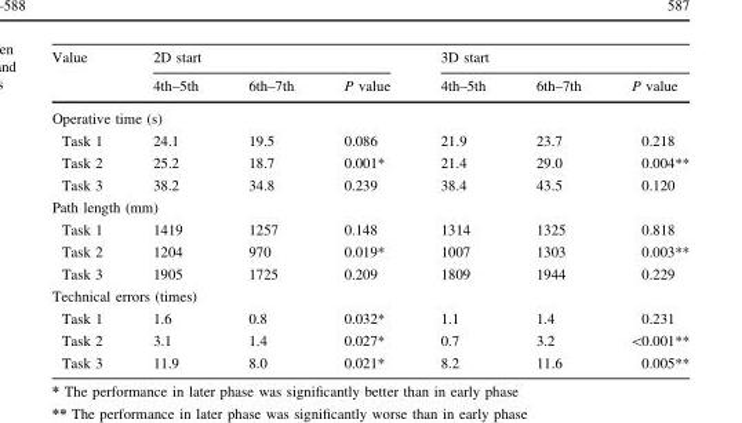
<table><thead><tr><td rowspan="2">Value</td><td colspan="3">2D start</td><td colspan="3">3D start</td></tr><tr><td>4th–5th</td><td>6th–7th</td><td>P value</td><td>4th–5th</td><td>6th–7th</td><td>P value</td></tr></thead><tbody><tr><td colspan="7">Operative time (s)</td></tr><tr><td>Task 1</td><td>24.1</td><td>19.5</td><td>0.086</td><td>21.9</td><td>23.7</td><td>0.218</td></tr><tr><td>Task 2</td><td>25.2</td><td>18.7</td><td>0.001*</td><td>21.4</td><td>29.0</td><td>0.004**</td></tr><tr><td>Task 3</td><td>38.2</td><td>34.8</td><td>0.239</td><td>38.4</td><td>43.5</td><td>0.120</td></tr><tr><td colspan="7">Path length (mm)</td></tr><tr><td>Task 1</td><td>1419</td><td>1257</td><td>0.148</td><td>1314</td><td>1325</td><td>0.818</td></tr><tr><td>Task 2</td><td>1204</td><td>970</td><td>0.019*</td><td>1007</td><td>1303</td><td>0.003**</td></tr><tr><td>Task 3</td><td>1905</td><td>1725</td><td>0.209</td><td>1809</td><td>1944</td><td>0.229</td></tr><tr><td colspan="7">Technical errors (times)</td></tr><tr><td>Task 1</td><td>1.6</td><td>0.8</td><td>0.032*</td><td>1.1</td><td>1.4</td><td>0.231</td></tr><tr><td>Task 2</td><td>3.1</td><td>1.4</td><td>0.027*</td><td>0.7</td><td>3.2</td><td>&lt;0.001**</td></tr><tr><td>Task 3</td><td>11.9</td><td>8.0</td><td>0.021*</td><td>8.2</td><td>11.6</td><td>0.005**</td></tr></tbody></table>